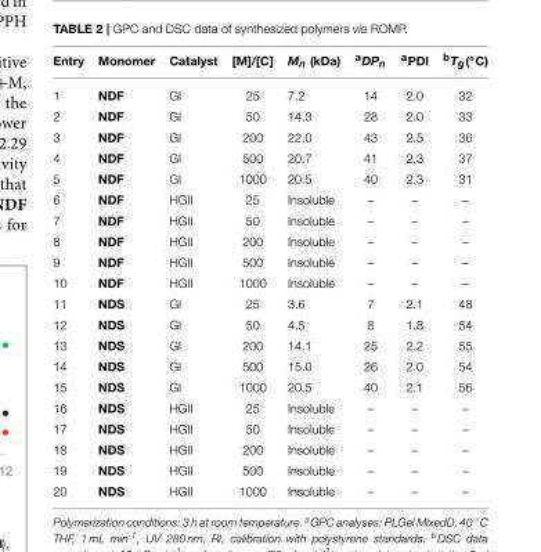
<table><thead><tr><td>Entry</td><td>Monomer</td><td>Catalyst</td><td>[M]/[C]</td><td>Mn (kDa)</td><td>aDPn</td><td><sup>a</sup>PDI</td><td>bTg(◦C)</td></tr></thead><tbody><tr><td>1</td><td>NDF</td><td>GI</td><td>25</td><td>7.2</td><td>14</td><td>2.0</td><td>32</td></tr><tr><td>2</td><td>NDF</td><td>GI</td><td>50</td><td>14.3</td><td>28</td><td>2.0</td><td>33</td></tr><tr><td>3</td><td>NDF</td><td>GI</td><td>200</td><td>22.0</td><td>43</td><td>2.5</td><td>36</td></tr><tr><td>4</td><td>NDF</td><td>GI</td><td>500</td><td>20.7</td><td>41</td><td>2.3</td><td>37</td></tr><tr><td>5</td><td>NDF</td><td>GI</td><td>1000</td><td>20.5</td><td>40</td><td>2.3</td><td>31</td></tr><tr><td>6</td><td>NDF</td><td>HGII</td><td>25</td><td>Insoluble</td><td>–</td><td>–</td><td>–</td></tr><tr><td>7</td><td>NDF</td><td>HGII</td><td>50</td><td>Insoluble</td><td>–</td><td>–</td><td>–</td></tr><tr><td>8</td><td>NDF</td><td>HGII</td><td>200</td><td>Insoluble</td><td>–</td><td>–</td><td>–</td></tr><tr><td>9</td><td>NDF</td><td>HGII</td><td>500</td><td>Insoluble</td><td>–</td><td>–</td><td>–</td></tr><tr><td>10</td><td>NDF</td><td>HGII</td><td>1000</td><td>Insoluble</td><td>–</td><td>–</td><td>–</td></tr><tr><td>11</td><td>NDS</td><td>GI</td><td>25</td><td>3.6</td><td>7</td><td>2.1</td><td>48</td></tr><tr><td>12</td><td>NDS</td><td>GI</td><td>50</td><td>4.5</td><td>8</td><td>1.8</td><td>54</td></tr><tr><td>13</td><td>NDS</td><td>GI</td><td>200</td><td>14.1</td><td>25</td><td>2.2</td><td>55</td></tr><tr><td>14</td><td>NDS</td><td>GI</td><td>500</td><td>15.0</td><td>26</td><td>2.0</td><td>54</td></tr><tr><td>15</td><td>NDS</td><td>GI</td><td>1000</td><td>20.5</td><td>40</td><td>2.1</td><td>56</td></tr><tr><td>16</td><td>NDS</td><td>HGII</td><td>25</td><td>Insoluble</td><td>–</td><td>–</td><td>–</td></tr><tr><td>17</td><td>NDS</td><td>HGII</td><td>50</td><td>Insoluble</td><td>–</td><td>–</td><td>–</td></tr><tr><td>18</td><td>NDS</td><td>HGII</td><td>200</td><td>Insoluble</td><td>–</td><td>–</td><td>–</td></tr><tr><td>19</td><td>NDS</td><td>HGII</td><td>500</td><td>Insoluble</td><td>–</td><td>–</td><td>–</td></tr><tr><td>20</td><td>NDS</td><td>HGII</td><td>1000</td><td>Insoluble</td><td>–</td><td>–</td><td>–</td></tr></tbody></table>